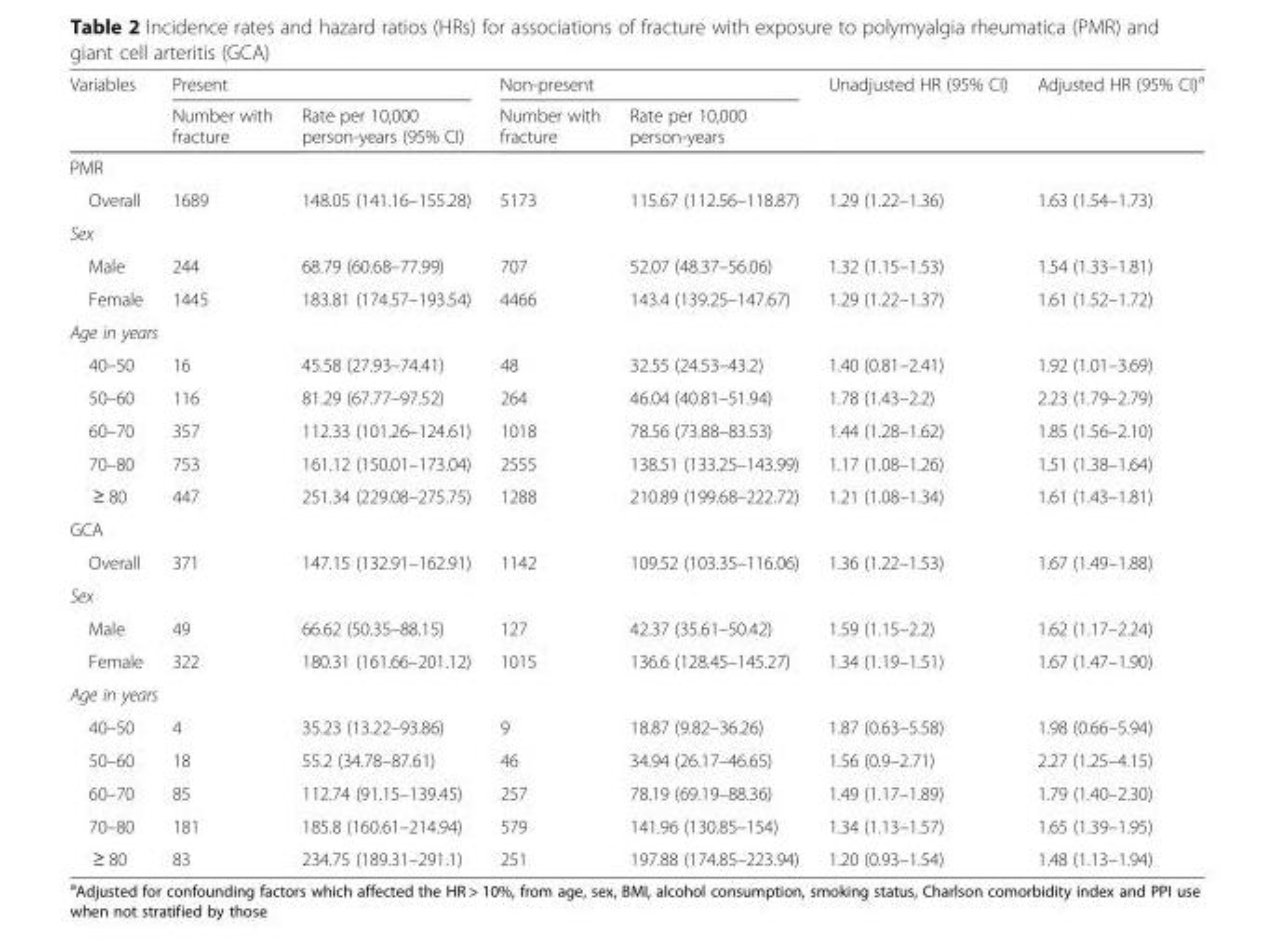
<table><thead><tr><td rowspan="2">Variables</td><td colspan="2">Present</td><td colspan="2">Non-present</td><td rowspan="2">Unadjusted HR (95% CI)</td><td rowspan="2">Adjusted HR (95% CI)<sup>a</sup></td></tr><tr><td>Number with fracture</td><td>Rate per 10,000 person-years (95% CI)</td><td>Number with fracture</td><td>Rate per 10,000 person-years</td></tr></thead><tbody><tr><td colspan="7">PMR</td></tr><tr><td>Overall</td><td>1689</td><td>148.05 (141.16–155.28)</td><td>5173</td><td>115.67 (112.56–118.87)</td><td>1.29 (1.22–1.36)</td><td>1.63 (1.54–1.73)</td></tr><tr><td colspan="7">Sex</td></tr><tr><td>Male</td><td>244</td><td>68.79 (60.68–77.99)</td><td>707</td><td>52.07 (48.37–56.06)</td><td>1.32 (1.15–1.53)</td><td>1.54 (1.33–1.81)</td></tr><tr><td>Female</td><td>1445</td><td>183.81 (174.57–193.54)</td><td>4466</td><td>143.4 (139.25–147.67)</td><td>1.29 (1.22–1.37)</td><td>1.61 (1.52–1.72)</td></tr><tr><td colspan="7">Age in years</td></tr><tr><td>40–50</td><td>16</td><td>45.58 (27.93–74.41)</td><td>48</td><td>32.55 (24.53–43.2)</td><td>1.40 (0.81–2.41)</td><td>1.92 (1.01–3.69)</td></tr><tr><td>50–60</td><td>116</td><td>81.29 (67.77–97.52)</td><td>264</td><td>46.04 (40.81–51.94)</td><td>1.78 (1.43–2.2)</td><td>2.23 (1.79–2.79)</td></tr><tr><td>60–70</td><td>357</td><td>112.33 (101.26–124.61)</td><td>1018</td><td>78.56 (73.88–83.53)</td><td>1.44 (1.28–1.62)</td><td>1.85 (1.56–2.10)</td></tr><tr><td>70–80</td><td>753</td><td>161.12 (150.01–173.04)</td><td>2555</td><td>138.51 (133.25–143.99)</td><td>1.17 (1.08–1.26)</td><td>1.51 (1.38–1.64)</td></tr><tr><td>≥ 80</td><td>447</td><td>251.34 (229.08–275.75)</td><td>1288</td><td>210.89 (199.68–222.72)</td><td>1.21 (1.08–1.34)</td><td>1.61 (1.43–1.81)</td></tr><tr><td colspan="7">GCA</td></tr><tr><td>Overall</td><td>371</td><td>147.15 (132.91–162.91)</td><td>1142</td><td>109.52 (103.35–116.06)</td><td>1.36 (1.22–1.53)</td><td>1.67 (1.49–1.88)</td></tr><tr><td colspan="7">Sex</td></tr><tr><td>Male</td><td>49</td><td>66.62 (50.35–88.15)</td><td>127</td><td>42.37 (35.61–50.42)</td><td>1.59 (1.15–2.2)</td><td>1.62 (1.17–2.24)</td></tr><tr><td>Female</td><td>322</td><td>180.31 (161.66–201.12)</td><td>1015</td><td>136.6 (128.45–145.27)</td><td>1.34 (1.19–1.51)</td><td>1.67 (1.47–1.90)</td></tr><tr><td colspan="7">Age in years</td></tr><tr><td>40–50</td><td>4</td><td>35.23 (13.22–93.86)</td><td>9</td><td>18.87 (9.82–36.26)</td><td>1.87 (0.63–5.58)</td><td>1.98 (0.66–5.94)</td></tr><tr><td>50–60</td><td>18</td><td>55.2 (34.78–87.61)</td><td>46</td><td>34.94 (26.17–46.65)</td><td>1.56 (0.9–2.71)</td><td>2.27 (1.25–4.15)</td></tr><tr><td>60–70</td><td>85</td><td>112.74 (91.15–139.45)</td><td>257</td><td>78.19 (69.19–88.36)</td><td>1.49 (1.17–1.89)</td><td>1.79 (1.40–2.30)</td></tr><tr><td>70–80</td><td>181</td><td>185.8 (160.61–214.94)</td><td>579</td><td>141.96 (130.85–154)</td><td>1.34 (1.13–1.57)</td><td>1.65 (1.39–1.95)</td></tr><tr><td>≥ 80</td><td>83</td><td>234.75 (189.31–291.1)</td><td>251</td><td>197.88 (174.85–223.94)</td><td>1.20 (0.93–1.54)</td><td>1.48 (1.13–1.94)</td></tr></tbody></table>